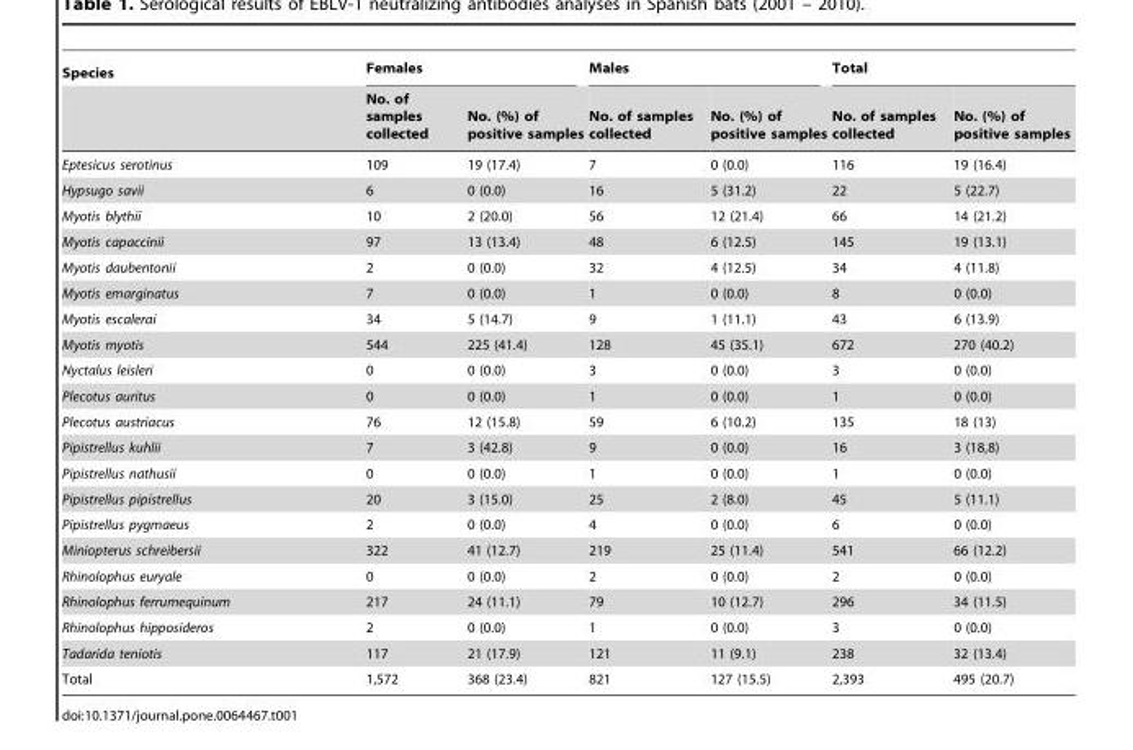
<table><thead><tr><td rowspan="2">Species</td><td colspan="2">Females</td><td colspan="2">Males</td><td colspan="2">Total</td></tr><tr><td>No. of samples collected</td><td>No. (%) of positive samples</td><td>No. of samples collected</td><td>No. (%) of positive samples</td><td>No. of samples collected</td><td>No. (%) of positive samples</td></tr></thead><tbody><tr><td>Eptesicus serotinus</td><td>109</td><td>19 (17.4)</td><td>7</td><td>0 (0.0)</td><td>116</td><td>19 (16.4)</td></tr><tr><td>Hypsugo savii</td><td>6</td><td>0 (0.0)</td><td>16</td><td>5 (31.2)</td><td>22</td><td>5 (22.7)</td></tr><tr><td>Myotis blythii</td><td>10</td><td>2 (20.0)</td><td>56</td><td>12 (21.4)</td><td>66</td><td>14 (21.2)</td></tr><tr><td>Myotis capaccinii</td><td>97</td><td>13 (13.4)</td><td>48</td><td>6 (12.5)</td><td>145</td><td>19 (13.1)</td></tr><tr><td>Myotis daubentonii</td><td>2</td><td>0 (0.0)</td><td>32</td><td>4 (12.5)</td><td>34</td><td>4 (11.8)</td></tr><tr><td>Myotis emarginatus</td><td>7</td><td>0 (0.0)</td><td>1</td><td>0 (0.0)</td><td>8</td><td>0 (0.0)</td></tr><tr><td>Myotis escalerai</td><td>34</td><td>5 (14.7)</td><td>9</td><td>1 (11.1)</td><td>43</td><td>6 (13.9)</td></tr><tr><td>Myotis myotis</td><td>544</td><td>225 (41.4)</td><td>128</td><td>45 (35.1)</td><td>672</td><td>270 (40.2)</td></tr><tr><td>Nyctalus leisleri</td><td>0</td><td>0 (0.0)</td><td>3</td><td>0 (0.0)</td><td>3</td><td>0 (0.0)</td></tr><tr><td>Plecotus auritus</td><td>0</td><td>0 (0.0)</td><td>1</td><td>0 (0.0)</td><td>1</td><td>0 (0.0)</td></tr><tr><td>Plecotus austriacus</td><td>76</td><td>12 (15.8)</td><td>59</td><td>6 (10.2)</td><td>135</td><td>18 (13)</td></tr><tr><td>Pipistrellus kuhlii</td><td>7</td><td>3 (42.8)</td><td>9</td><td>0 (0.0)</td><td>16</td><td>3 (18,8)</td></tr><tr><td>Pipistrellus nathusii</td><td>0</td><td>0 (0.0)</td><td>1</td><td>0 (0.0)</td><td>1</td><td>0 (0.0)</td></tr><tr><td>Pipistrellus pipistrellus</td><td>20</td><td>3 (15.0)</td><td>25</td><td>2 (8.0)</td><td>45</td><td>5 (11.1)</td></tr><tr><td>Pipistrellus pygmaeus</td><td>2</td><td>0 (0.0)</td><td>4</td><td>0 (0.0)</td><td>6</td><td>0 (0.0)</td></tr><tr><td>Miniopterus schreibersii</td><td>322</td><td>41 (12.7)</td><td>219</td><td>25 (11.4)</td><td>541</td><td>66 (12.2)</td></tr><tr><td>Rhinolophus euryale</td><td>0</td><td>0 (0.0)</td><td>2</td><td>0 (0.0)</td><td>2</td><td>0 (0.0)</td></tr><tr><td>Rhinolophus ferrumequinum</td><td>217</td><td>24 (11.1)</td><td>79</td><td>10 (12.7)</td><td>296</td><td>34 (11.5)</td></tr><tr><td>Rhinolophus hipposideros</td><td>2</td><td>0 (0.0)</td><td>1</td><td>0 (0.0)</td><td>3</td><td>0 (0.0)</td></tr><tr><td>Tadarida teniotis</td><td>117</td><td>21 (17.9)</td><td>121</td><td>11 (9.1)</td><td>238</td><td>32 (13.4)</td></tr><tr><td>Total</td><td>1,572</td><td>368 (23.4)</td><td>821</td><td>127 (15.5)</td><td>2,393</td><td>495 (20.7)</td></tr></tbody></table>